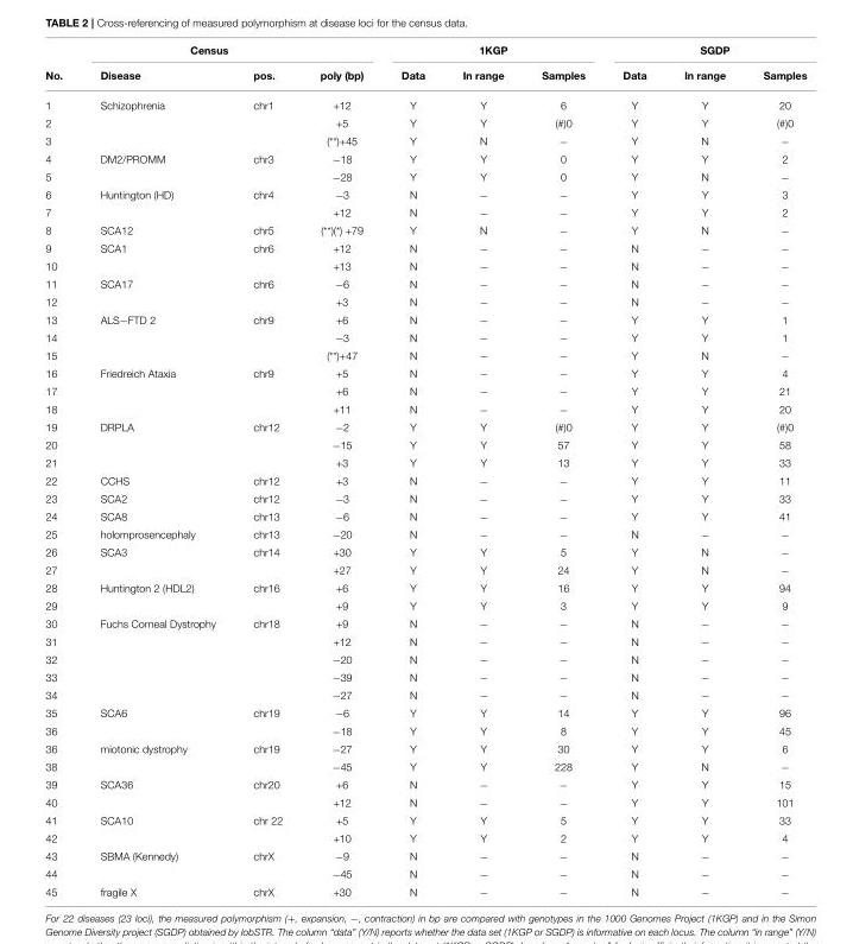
<table><thead><tr><td rowspan="2">No.</td><td colspan="3">Census</td><td colspan="3">1KGP</td><td colspan="3">SGDP</td></tr><tr><td>Disease</td><td>pos.</td><td>poly (bp)</td><td>Data</td><td>In range</td><td>Samples</td><td>Data</td><td>In range</td><td>Samples</td></tr></thead><tbody><tr><td>1</td><td>Schizophrenia</td><td>chr1</td><td>+12</td><td>Y</td><td>Y</td><td>6</td><td>Y</td><td>Y</td><td>20</td></tr><tr><td>2</td><td></td><td></td><td>+5</td><td>Y</td><td>Y</td><td>(<sup>#</sup>)0</td><td>Y</td><td>Y</td><td>(<sup>#</sup>)0</td></tr><tr><td>3</td><td></td><td></td><td>(**)+45</td><td>Y</td><td>N</td><td>−</td><td>Y</td><td>N</td><td>−</td></tr><tr><td>4</td><td>DM2/PROMM</td><td>chr3</td><td>−18</td><td>Y</td><td>Y</td><td>0</td><td>Y</td><td>Y</td><td>2</td></tr><tr><td>5</td><td></td><td></td><td>−28</td><td>Y</td><td>Y</td><td>0</td><td>Y</td><td>N</td><td>−</td></tr><tr><td>6</td><td>Huntington (HD)</td><td>chr4</td><td>−3</td><td>N</td><td>−</td><td>−</td><td>Y</td><td>Y</td><td>3</td></tr><tr><td>7</td><td></td><td></td><td>+12</td><td>N</td><td>−</td><td>−</td><td>Y</td><td>Y</td><td>2</td></tr><tr><td>8</td><td>SCA12</td><td>chr5</td><td>(**)(*) +79</td><td>Y</td><td>N</td><td>−</td><td>Y</td><td>N</td><td>−</td></tr><tr><td>9</td><td>SCA1</td><td>chr6</td><td>+12</td><td>N</td><td>−</td><td>−</td><td>N</td><td>−</td><td>−</td></tr><tr><td>10</td><td></td><td></td><td>+13</td><td>N</td><td>−</td><td>−</td><td>N</td><td>−</td><td>−</td></tr><tr><td>11</td><td>SCA17</td><td>chr6</td><td>−6</td><td>N</td><td>−</td><td>−</td><td>N</td><td>−</td><td>−</td></tr><tr><td>12</td><td></td><td></td><td>+3</td><td>N</td><td>−</td><td>−</td><td>N</td><td>−</td><td>−</td></tr><tr><td>13</td><td>ALS−FTD 2</td><td>chr9</td><td>+6</td><td>N</td><td>−</td><td>−</td><td>Y</td><td>Y</td><td>1</td></tr><tr><td>14</td><td></td><td></td><td>−3</td><td>N</td><td>−</td><td>−</td><td>Y</td><td>Y</td><td>1</td></tr><tr><td>15</td><td></td><td></td><td>(**)+47</td><td>N</td><td>−</td><td>−</td><td>Y</td><td>N</td><td>−</td></tr><tr><td>16</td><td>Friedreich Ataxia</td><td>chr9</td><td>+5</td><td>N</td><td>−</td><td>−</td><td>Y</td><td>Y</td><td>4</td></tr><tr><td>17</td><td></td><td></td><td>+6</td><td>N</td><td>−</td><td>−</td><td>Y</td><td>Y</td><td>21</td></tr><tr><td>18</td><td></td><td></td><td>+11</td><td>N</td><td>−</td><td>−</td><td>Y</td><td>Y</td><td>20</td></tr><tr><td>19</td><td>DRPLA</td><td>chr12</td><td>−2</td><td>Y</td><td>Y</td><td>(<sup>#</sup>)0</td><td>Y</td><td>Y</td><td>(<sup>#</sup>)0</td></tr><tr><td>20</td><td></td><td></td><td>−15</td><td>Y</td><td>Y</td><td>57</td><td>Y</td><td>Y</td><td>58</td></tr><tr><td>21</td><td></td><td></td><td>+3</td><td>Y</td><td>Y</td><td>13</td><td>Y</td><td>Y</td><td>33</td></tr><tr><td>22</td><td>CCHS</td><td>chr12</td><td>+3</td><td>N</td><td>−</td><td>−</td><td>Y</td><td>Y</td><td>11</td></tr><tr><td>23</td><td>SCA2</td><td>chr12</td><td>−3</td><td>N</td><td>−</td><td>−</td><td>Y</td><td>Y</td><td>33</td></tr><tr><td>24</td><td>SCA8</td><td>chr13</td><td>−6</td><td>N</td><td>−</td><td>−</td><td>Y</td><td>Y</td><td>41</td></tr><tr><td>25</td><td>holomprosencephaly</td><td>chr13</td><td>−20</td><td>N</td><td>−</td><td>−</td><td>N</td><td>−</td><td>−</td></tr><tr><td>26</td><td>SCA3</td><td>chr14</td><td>+30</td><td>Y</td><td>Y</td><td>5</td><td>Y</td><td>N</td><td>−</td></tr><tr><td>27</td><td></td><td></td><td>+27</td><td>Y</td><td>Y</td><td>24</td><td>Y</td><td>N</td><td>−</td></tr><tr><td>28</td><td>Huntington 2 (HDL2)</td><td>chr16</td><td>+6</td><td>Y</td><td>Y</td><td>16</td><td>Y</td><td>Y</td><td>94</td></tr><tr><td>29</td><td></td><td></td><td>+9</td><td>Y</td><td>Y</td><td>3</td><td>Y</td><td>Y</td><td>9</td></tr><tr><td>30</td><td>Fuchs Corneal Dystrophy</td><td>chr18</td><td>+9</td><td>N</td><td>−</td><td>−</td><td>N</td><td>−</td><td>−</td></tr><tr><td>31</td><td></td><td></td><td>+12</td><td>N</td><td>−</td><td>−</td><td>N</td><td>−</td><td>−</td></tr><tr><td>32</td><td></td><td></td><td>−20</td><td>N</td><td>−</td><td>−</td><td>N</td><td>−</td><td>−</td></tr><tr><td>33</td><td></td><td></td><td>−39</td><td>N</td><td>−</td><td>−</td><td>N</td><td>−</td><td>−</td></tr><tr><td>34</td><td></td><td></td><td>−27</td><td>N</td><td>−</td><td>−</td><td>N</td><td>−</td><td>−</td></tr><tr><td>35</td><td>SCA6</td><td>chr19</td><td>−6</td><td>Y</td><td>Y</td><td>14</td><td>Y</td><td>Y</td><td>96</td></tr><tr><td>36</td><td></td><td></td><td>−18</td><td>Y</td><td>Y</td><td>8</td><td>Y</td><td>Y</td><td>45</td></tr><tr><td>36</td><td>miotonic dystrophy</td><td>chr19</td><td>−27</td><td>Y</td><td>Y</td><td>30</td><td>Y</td><td>Y</td><td>6</td></tr><tr><td>38</td><td></td><td></td><td>−45</td><td>Y</td><td>Y</td><td>228</td><td>Y</td><td>N</td><td>−</td></tr><tr><td>39</td><td>SCA36</td><td>chr20</td><td>+6</td><td>N</td><td>−</td><td>−</td><td>Y</td><td>Y</td><td>15</td></tr><tr><td>40</td><td></td><td></td><td>+12</td><td>N</td><td>−</td><td>−</td><td>Y</td><td>Y</td><td>101</td></tr><tr><td>41</td><td>SCA10</td><td>chr 22</td><td>+5</td><td>Y</td><td>Y</td><td>5</td><td>Y</td><td>Y</td><td>33</td></tr><tr><td>42</td><td></td><td></td><td>+10</td><td>Y</td><td>Y</td><td>2</td><td>Y</td><td>Y</td><td>4</td></tr><tr><td>43</td><td>SBMA (Kennedy)</td><td>chrX</td><td>−9</td><td>N</td><td>−</td><td>−</td><td>N</td><td>−</td><td>−</td></tr><tr><td>44</td><td></td><td></td><td>−45</td><td>N</td><td>−</td><td>−</td><td>N</td><td>−</td><td>−</td></tr><tr><td>45</td><td>fragile X</td><td>chrX</td><td>+30</td><td>N</td><td>−</td><td>−</td><td>N</td><td>−</td><td>−</td></tr></tbody></table>